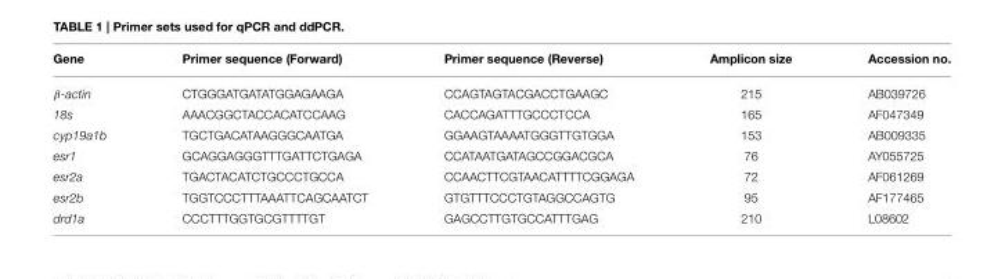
<table><thead><tr><td>Gene</td><td>Primer sequence (Forward)</td><td>Primer sequence (Reverse)</td><td>Amplicon size</td><td>Accession no.</td></tr></thead><tbody><tr><td>β-actin</td><td>CTGGGATGATATGGAGAAGA</td><td>CCAGTAGTACGACCTGAAGC</td><td>215</td><td>AB039726</td></tr><tr><td>18s</td><td>AAACGGCTACCACATCCAAG</td><td>CACCAGATTTGCCCTCCA</td><td>165</td><td>AF047349</td></tr><tr><td>cyp19a1b</td><td>TGCTGACATAAGGGCAATGA</td><td>GGAAGTAAAATGGGTTGTGGA</td><td>153</td><td>AB009335</td></tr><tr><td>esr1</td><td>GCAGGAGGGTTTGATTCTGAGA</td><td>CCATAATGATAGCCGGACGCA</td><td>76</td><td>AY055725</td></tr><tr><td>esr2a</td><td>TGACTACATCTGCCCTGCCA</td><td>CCAACTTCGTAACATTTTCGGAGA</td><td>72</td><td>AF061269</td></tr><tr><td>esr2b</td><td>TGGTCCCTTTAAATTCAGCAATCT</td><td>GTGTTTCCCTGTAGGCCAGTG</td><td>95</td><td>AF177465</td></tr><tr><td>drd1a</td><td>CCCTTTGGTGCGTTTTGT</td><td>GAGCCTTGTGCCATTTGAG</td><td>210</td><td>L08602</td></tr></tbody></table>